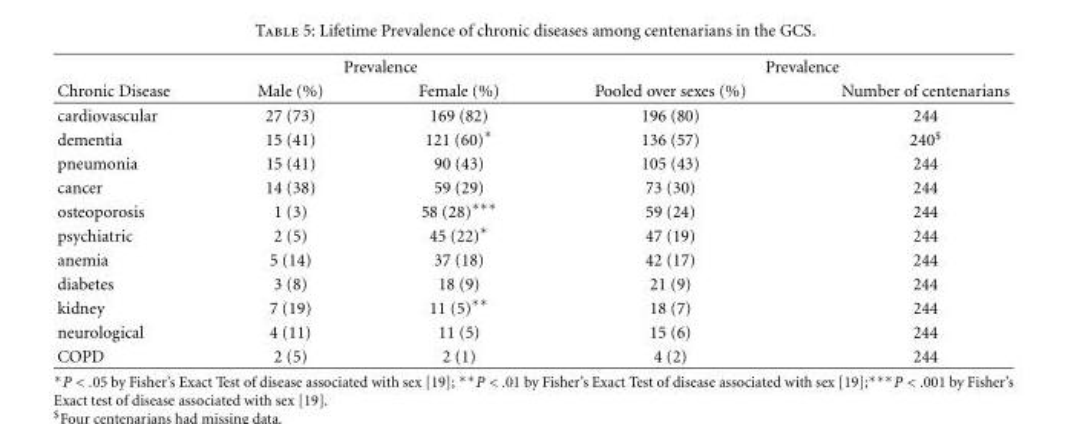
<table><thead><tr><td rowspan="2">Chronic Disease</td><td colspan="2">Prevalence</td><td colspan="2">Prevalence</td></tr><tr><td>Male (%)</td><td>Female (%)</td><td>Pooled over sexes (%)</td><td>Number of centenarians</td></tr></thead><tbody><tr><td>cardiovascular</td><td>27 (73)</td><td>169 (82)</td><td>196 (80)</td><td>244</td></tr><tr><td>dementia</td><td>15 (41)</td><td>121 (60)∗</td><td>136 (57)</td><td>240<sup>$</sup></td></tr><tr><td>pneumonia</td><td>15 (41)</td><td>90 (43)</td><td>105 (43)</td><td>244</td></tr><tr><td>cancer</td><td>14 (38)</td><td>59 (29)</td><td>73 (30)</td><td>244</td></tr><tr><td>osteoporosis</td><td>1 (3)</td><td>58 (28)∗∗∗</td><td>59 (24)</td><td>244</td></tr><tr><td>psychiatric</td><td>2 (5)</td><td>45 (22)∗</td><td>47 (19)</td><td>244</td></tr><tr><td>anemia</td><td>5 (14)</td><td>37 (18)</td><td>42 (17)</td><td>244</td></tr><tr><td>diabetes</td><td>3 (8)</td><td>18 (9)</td><td>21 (9)</td><td>244</td></tr><tr><td>kidney</td><td>7 (19)</td><td>11 (5)∗∗</td><td>18 (7)</td><td>244</td></tr><tr><td>neurological</td><td>4 (11)</td><td>11 (5)</td><td>15 (6)</td><td>244</td></tr><tr><td>COPD</td><td>2 (5)</td><td>2 (1)</td><td>4 (2)</td><td>244</td></tr></tbody></table>